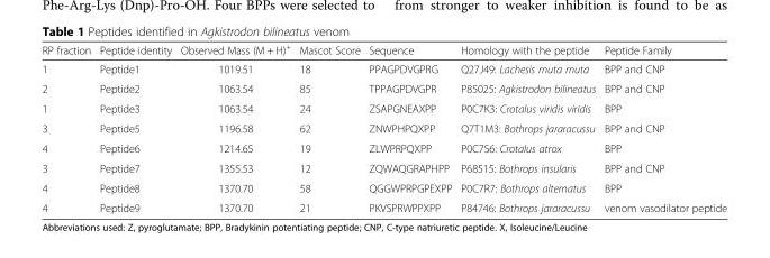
<table><thead><tr><td>RP fraction</td><td>Peptide identity</td><td>Observed Mass (M + H)<sup>+</sup></td><td>Mascot Score</td><td>Sequence</td><td>Homology with the peptide</td><td>Peptide Family</td></tr></thead><tbody><tr><td>1</td><td>Peptide1</td><td>1019.51</td><td>18</td><td>PPAGPDVGPRG</td><td>Q27J49: Lachesis muta muta</td><td>BPP and CNP</td></tr><tr><td>2</td><td>Peptide2</td><td>1063.54</td><td>85</td><td>TPPAGPDVGPR</td><td>P85025: Agkistrodon bilineatus</td><td>BPP and CNP</td></tr><tr><td>1</td><td>Peptide3</td><td>1063.54</td><td>24</td><td>ZSAPGNEAXPP</td><td>P0C7K3: Crotalus viridis viridis</td><td>BPP</td></tr><tr><td>3</td><td>Peptide5</td><td>1196.58</td><td>62</td><td>ZNWPHPQXPP</td><td>Q7T1M3: Bothrops jararacussu</td><td>BPP and CNP</td></tr><tr><td>4</td><td>Peptide6</td><td>1214.65</td><td>19</td><td>ZLWPRPQXPP</td><td>P0C7S6: Crotalus atrox</td><td>BPP</td></tr><tr><td>3</td><td>Peptide7</td><td>1355.53</td><td>12</td><td>ZQWAQGRAPHPP</td><td>P68515: Bothrops insularis</td><td>BPP and CNP</td></tr><tr><td>4</td><td>Peptide8</td><td>1370.70</td><td>58</td><td>QGGWPRPGPEXPP</td><td>P0C7R7: Bothrops alternatus</td><td>BPP</td></tr><tr><td>4</td><td>Peptide9</td><td>1370.70</td><td>21</td><td>PKVSPRWPPXPP</td><td>P84746: Bothrops jararacussu</td><td>venom vasodilator peptide</td></tr></tbody></table>